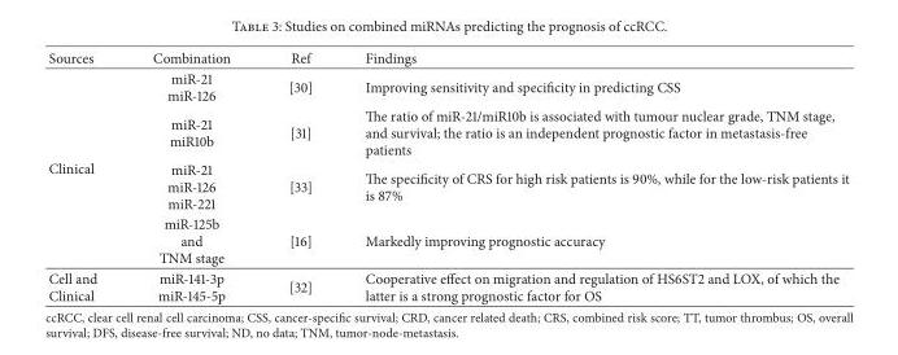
<table><thead><tr><td>Sources</td><td>Combination</td><td>Ref</td><td>Findings</td></tr></thead><tbody><tr><td rowspan="4">Clinical</td><td>miR-21 miR-126</td><td>[30]</td><td>Improving sensitivity and specificity in predicting CSS</td></tr><tr><td>miR-21 miR10b</td><td>[31]</td><td>The ratio of miR-21/miR10b is associated with tumour nuclear grade, TNM stage, and survival; the ratio is an independent prognostic factor in metastasis-free patients</td></tr><tr><td>miR-21 miR-126 miR-221</td><td>[33]</td><td>The specificity of CRS for high risk patients is 90%, while for the low-risk patients it is 87%</td></tr><tr><td>miR-125b and TNM stage</td><td>[16]</td><td>Markedly improving prognostic accuracy</td></tr><tr><td>Cell and Clinical</td><td>miR-141-3p miR-145-5p</td><td>[32]</td><td>Cooperative effect on migration and regulation of HS6ST2 and LOX, of which the latter is a strong prognostic factor for OS</td></tr></tbody></table>